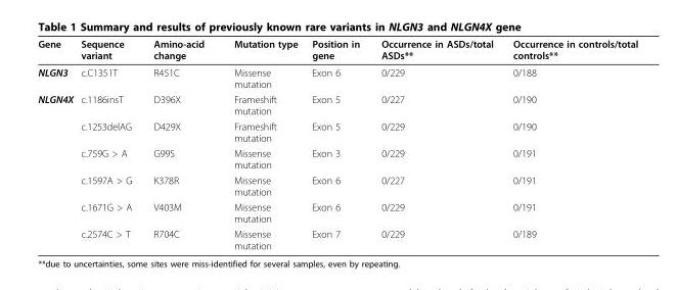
<table><thead><tr><td>Gene</td><td>Sequence variant</td><td>Amino-acid change</td><td>Mutation type</td><td>Position in gene</td><td>Occurrence in ASDs/total ASDs**</td><td>Occurrence in controls/total controls**</td></tr></thead><tbody><tr><td>NLGN3</td><td>c.C1351T</td><td>R451C</td><td>Missense mutation</td><td>Exon 6</td><td>0/229</td><td>0/188</td></tr><tr><td rowspan="6">NLGN4X</td><td>c.1186insT</td><td>D396X</td><td>Frameshift mutation</td><td>Exon 5</td><td>0/227</td><td>0/190</td></tr><tr><td>c.1253delAG</td><td>D429X</td><td>Frameshift mutation</td><td>Exon 5</td><td>0/229</td><td>0/190</td></tr><tr><td>c.759G &gt; A</td><td>G99S</td><td>Missense mutation</td><td>Exon 3</td><td>0/229</td><td>0/191</td></tr><tr><td>c.1597A &gt; G</td><td>K378R</td><td>Missense mutation</td><td>Exon 6</td><td>0/227</td><td>0/191</td></tr><tr><td>c.1671G &gt; A</td><td>V403M</td><td>Missense mutation</td><td>Exon 6</td><td>0/229</td><td>0/191</td></tr><tr><td>c.2574C &gt; T</td><td>R704C</td><td>Missense mutation</td><td>Exon 7</td><td>0/229</td><td>0/189</td></tr></tbody></table>